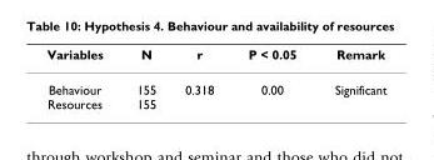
<table><thead><tr><td>Variables</td><td>N</td><td>r</td><td>P &lt; 0.05</td><td>Remark</td></tr></thead><tbody><tr><td>Behaviour Resources</td><td>155 155</td><td>0.318</td><td>0.00</td><td>Significant</td></tr></tbody></table>